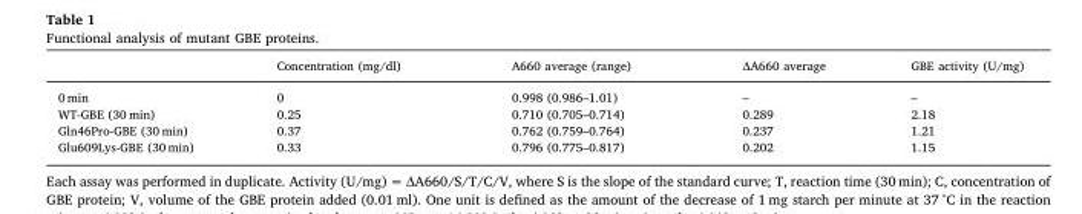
<table><thead><tr><td></td><td>Concentration (mg/dl)</td><td>A660 average (range)</td><td>ΔA660 average</td><td>GBE activity (U/mg)</td></tr></thead><tbody><tr><td>0 min</td><td>0</td><td>0.998 (0.986–1.01)</td><td>–</td><td>–</td></tr><tr><td>WT-GBE (30 min)</td><td>0.25</td><td>0.710 (0.705–0.714)</td><td>0.289</td><td>2.18</td></tr><tr><td>Gln46Pro-GBE (30 min)</td><td>0.37</td><td>0.762 (0.759–0.764)</td><td>0.237</td><td>1.21</td></tr><tr><td>Glu609Lys-GBE (30 min)</td><td>0.33</td><td>0.796 (0.775–0.817)</td><td>0.202</td><td>1.15</td></tr></tbody></table>